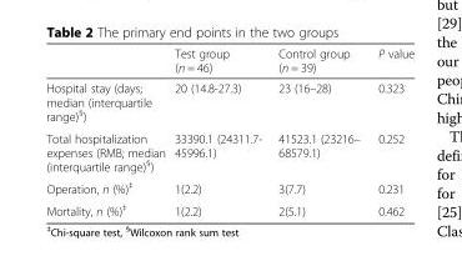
<table><thead><tr><td></td><td>Test group (n = 46)</td><td>Control group (n = 39)</td><td>P value</td></tr></thead><tbody><tr><td>Hospital stay (days; median (interquartile range)<sup>§</sup>)</td><td>20 (14.8-27.3)</td><td>23 (16–28)</td><td>0.323</td></tr><tr><td>Total hospitalization expenses (RMB; median (interquartile range)<sup>§</sup>)</td><td>33390.1 (24311.7- 45996.1)</td><td>41523.1 (23216– 68579.1)</td><td>0.252</td></tr><tr><td>Operation, n (%)<sup>‡</sup></td><td>1(2.2)</td><td>3(7.7)</td><td>0.231</td></tr><tr><td>Mortality, n (%)<sup>‡</sup></td><td>1(2.2)</td><td>2(5.1)</td><td>0.462</td></tr></tbody></table>